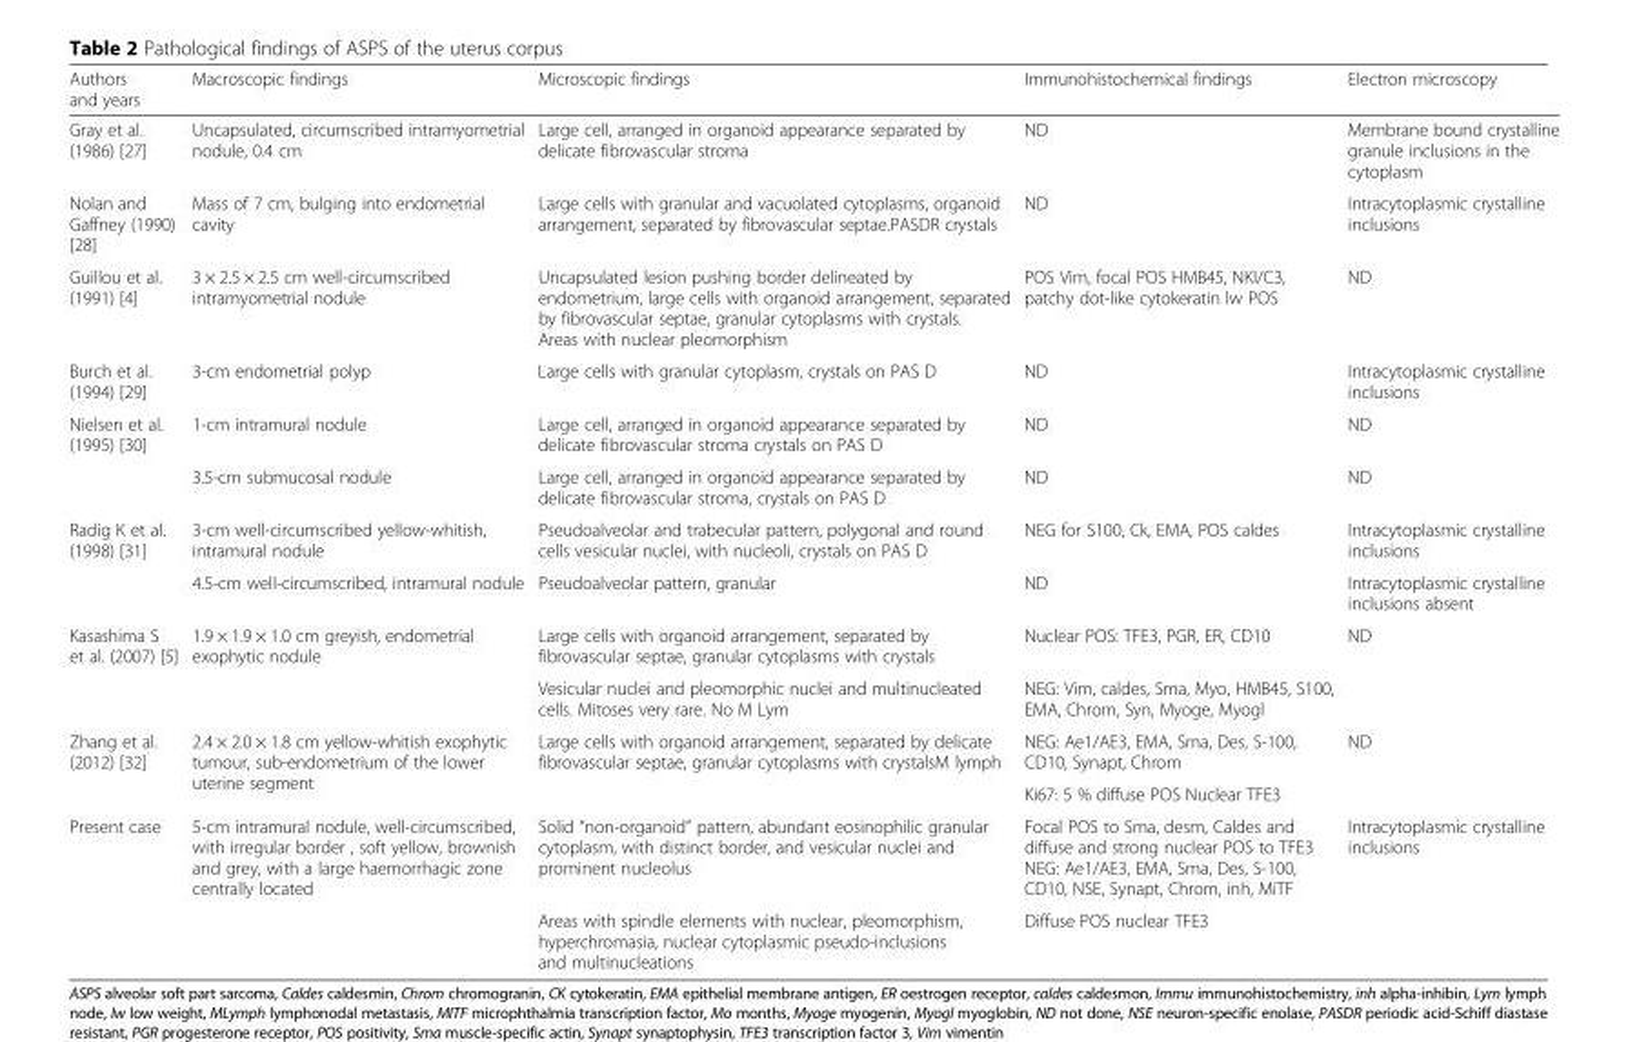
<table><thead><tr><td>Authors and years</td><td>Macroscopic findings</td><td>Microscopic findings</td><td>Immunohistochemical findings</td><td>Electron microscopy</td></tr></thead><tbody><tr><td>Gray et al. (1986) [27]</td><td>Uncapsulated, circumscribed intramyometrial nodule, 0.4 cm</td><td>Large cell, arranged in organoid appearance separated by delicate fibrovascular stroma</td><td>ND</td><td>Membrane bound crystalline granule inclusions in the cytoplasm</td></tr><tr><td>Nolan and Gaffney (1990) [28]</td><td>Mass of 7 cm, bulging into endometrial cavity</td><td>Large cells with granular and vacuolated cytoplasms, organoid arrangement, separated by fibrovascular septae.PASDR crystals</td><td>ND</td><td>Intracytoplasmic crystalline inclusions</td></tr><tr><td>Guillou et al. (1991) [4]</td><td>3 × 2.5 × 2.5 cm well-circumscribed intramyometrial nodule</td><td>Uncapsulated lesion pushing border delineated by endometrium, large cells with organoid arrangement, separated by fibrovascular septae, granular cytoplasms with crystals. Areas with nuclear pleomorphism</td><td>POS Vim, focal POS HMB45, NKI/C3, patchy dot-like cytokeratin lw POS</td><td>ND</td></tr><tr><td>Burch et al. (1994) [29]</td><td>3-cm endometrial polyp</td><td>Large cells with granular cytoplasm, crystals on PAS D</td><td>ND</td><td>Intracytoplasmic crystalline inclusions</td></tr><tr><td rowspan="2">Nielsen et al. (1995) [30]</td><td>1-cm intramural nodule</td><td>Large cell, arranged in organoid appearance separated by delicate fibrovascular stroma crystals on PAS D</td><td>ND</td><td>ND</td></tr><tr><td>3.5-cm submucosal nodule</td><td>Large cell, arranged in organoid appearance separated by delicate fibrovascular stroma, crystals on PAS D</td><td>ND</td><td>ND</td></tr><tr><td rowspan="2">Radig K et al. (1998) [31]</td><td>3-cm well-circumscribed yellow-whitish, intramural nodule</td><td>Pseudoalveolar and trabecular pattern, polygonal and round cells vesicular nuclei, with nucleoli, crystals on PAS D</td><td>NEG for S100, Ck, EMA, POS caldes</td><td>Intracytoplasmic crystalline inclusions</td></tr><tr><td>4.5-cm well-circumscribed, intramural nodule</td><td>Pseudoalveolar pattern, granular</td><td>ND</td><td>Intracytoplasmic crystalline inclusions absent</td></tr><tr><td rowspan="2">Kasashima S et al. (2007) [5]</td><td rowspan="2">1.9 × 1.9 × 1.0 cm greyish, endometrial exophytic nodule</td><td>Large cells with organoid arrangement, separated by fibrovascular septae, granular cytoplasms with crystals</td><td>Nuclear POS: TFE3, PGR, ER, CD10</td><td rowspan="2">ND</td></tr><tr><td>Vesicular nuclei and pleomorphic nuclei and multinucleated cells. Mitoses very rare. No M Lym</td><td>NEG: Vim, caldes, Sma, Myo, HMB45, S100, EMA, Chrom, Syn, Myoge, Myogl</td></tr><tr><td rowspan="2">Zhang et al. (2012) [32]</td><td rowspan="2">2.4 × 2.0 × 1.8 cm yellow-whitish exophytic tumour, sub-endometrium of the lower uterine segment</td><td rowspan="2">Large cells with organoid arrangement, separated by delicate fibrovascular septae, granular cytoplasms with crystalsM lymph</td><td>NEG: Ae1/AE3, EMA, Sma, Des, S-100, CD10, Synapt, Chrom</td><td rowspan="2">ND</td></tr><tr><td>Ki67: 5 % diffuse POS Nuclear TFE3</td></tr><tr><td rowspan="2">Present case</td><td rowspan="2">5-cm intramural nodule, well-circumscribed, with irregular border , soft yellow, brownish and grey, with a large haemorrhagic zone centrally located</td><td>Solid “non-organoid” pattern, abundant eosinophilic granular cytoplasm, with distinct border, and vesicular nuclei and prominent nucleolus</td><td>Focal POS to Sma, desm, Caldes and diffuse and strong nuclear POS to TFE3 NEG: Ae1/AE3, EMA, Sma, Des, S-100, CD10, NSE, Synapt, Chrom, inh, MiTF</td><td rowspan="2">Intracytoplasmic crystalline inclusions</td></tr><tr><td>Areas with spindle elements with nuclear, pleomorphism, hyperchromasia, nuclear cytoplasmic pseudo-inclusions and multinucleations</td><td>Diffuse POS nuclear TFE3</td></tr></tbody></table>